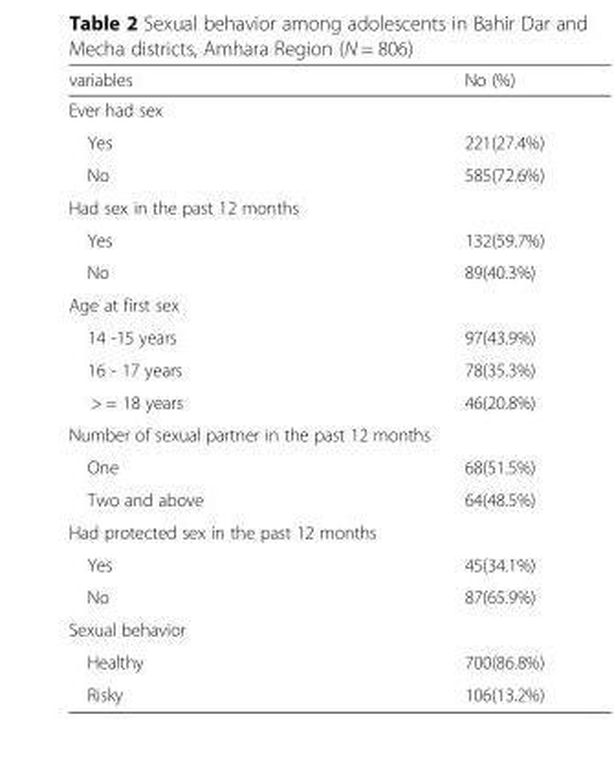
<table><thead><tr><td>variables</td><td>No (%)</td></tr></thead><tbody><tr><td colspan="2">Ever had sex</td></tr><tr><td>Yes</td><td>221(27.4%)</td></tr><tr><td>No</td><td>585(72.6%)</td></tr><tr><td colspan="2">Had sex in the past 12 months</td></tr><tr><td>Yes</td><td>132(59.7%)</td></tr><tr><td>No</td><td>89(40.3%)</td></tr><tr><td colspan="2">Age at first sex</td></tr><tr><td>14 -15 years</td><td>97(43.9%)</td></tr><tr><td>16 - 17 years</td><td>78(35.3%)</td></tr><tr><td>&gt; = 18 years</td><td>46(20.8%)</td></tr><tr><td colspan="2">Number of sexual partner in the past 12 months</td></tr><tr><td>One</td><td>68(51.5%)</td></tr><tr><td>Two and above</td><td>64(48.5%)</td></tr><tr><td colspan="2">Had protected sex in the past 12 months</td></tr><tr><td>Yes</td><td>45(34.1%)</td></tr><tr><td>No</td><td>87(65.9%)</td></tr><tr><td colspan="2">Sexual behavior</td></tr><tr><td>Healthy</td><td>700(86.8%)</td></tr><tr><td>Risky</td><td>106(13.2%)</td></tr></tbody></table>